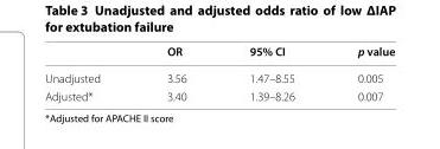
<table><thead><tr><td></td><td>OR</td><td>95% CI</td><td>p value</td></tr></thead><tbody><tr><td>Unadjusted</td><td>3.56</td><td>1.47–8.55</td><td>0.005</td></tr><tr><td>Adjusted*</td><td>3.40</td><td>1.39–8.26</td><td>0.007</td></tr></tbody></table>